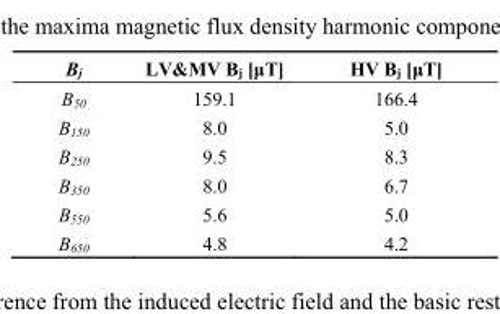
<table><thead><tr><td>B<sub>j</sub></td><td>LV&amp;MV B<sub>j</sub> [μT]</td><td>HV B<sub>j</sub> [μT]</td></tr></thead><tbody><tr><td>B<sub>50</sub></td><td>159.1</td><td>166.4</td></tr><tr><td>B<sub>150</sub></td><td>8.0</td><td>5.0</td></tr><tr><td>B<sub>250</sub></td><td>9.5</td><td>8.3</td></tr><tr><td>B<sub>350</sub></td><td>8.0</td><td>6.7</td></tr><tr><td>B<sub>550</sub></td><td>5.6</td><td>5.0</td></tr><tr><td>B<sub>650</sub></td><td>4.8</td><td>4.2</td></tr></tbody></table>